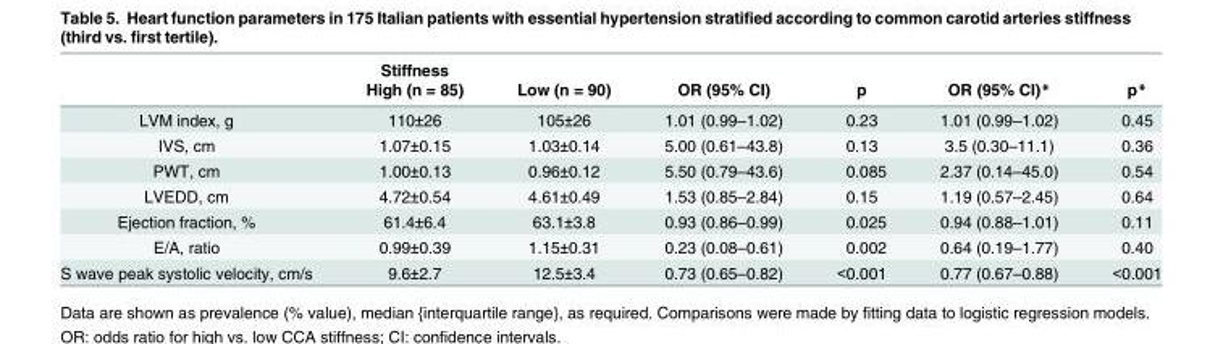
<table><thead><tr><td rowspan="2"></td><td rowspan="2">Stiffness High (n = 85)</td><td rowspan="2">Low (n = 90)</td><td rowspan="2">OR (95% CI)</td><td rowspan="2">p</td><td rowspan="2">OR (95% CI)*</td><td rowspan="2">p*</td></tr><tr></tr></thead><tbody><tr><td>LVM index, g</td><td>110±26</td><td>105±26</td><td>1.01 (0.99–1.02)</td><td>0.23</td><td>1.01 (0.99–1.02)</td><td>0.45</td></tr><tr><td>IVS, cm</td><td>1.07±0.15</td><td>1.03±0.14</td><td>5.00 (0.61–43.8)</td><td>0.13</td><td>3.5 (0.30–11.1)</td><td>0.36</td></tr><tr><td>PWT, cm</td><td>1.00±0.13</td><td>0.96±0.12</td><td>5.50 (0.79–43.6)</td><td>0.085</td><td>2.37 (0.14–45.0)</td><td>0.54</td></tr><tr><td>LVEDD, cm</td><td>4.72±0.54</td><td>4.61±0.49</td><td>1.53 (0.85–2.84)</td><td>0.15</td><td>1.19 (0.57–2.45)</td><td>0.64</td></tr><tr><td>Ejection fraction, %</td><td>61.4±6.4</td><td>63.1±3.8</td><td>0.93 (0.86–0.99)</td><td>0.025</td><td>0.94 (0.88–1.01)</td><td>0.11</td></tr><tr><td>E/A, ratio</td><td>0.99±0.39</td><td>1.15±0.31</td><td>0.23 (0.08–0.61)</td><td>0.002</td><td>0.64 (0.19–1.77)</td><td>0.40</td></tr><tr><td>S wave peak systolic velocity, cm/s</td><td>9.6±2.7</td><td>12.5±3.4</td><td>0.73 (0.65–0.82)</td><td>&lt;0.001</td><td>0.77 (0.67–0.88)</td><td>&lt;0.001</td></tr></tbody></table>